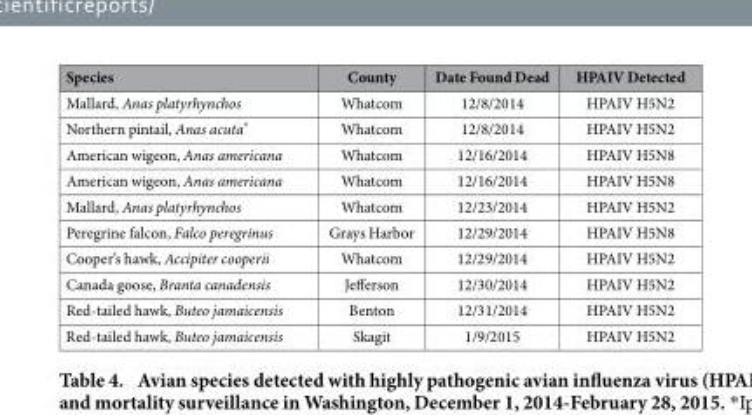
<table><thead><tr><td>Species</td><td>County</td><td>Date Found Dead</td><td>HPAIV Detected</td></tr></thead><tbody><tr><td>Mallard, Anas platyrhynchos</td><td>Whatcom</td><td>12/8/2014</td><td>HPAIV H5N2</td></tr><tr><td>Northern pintail, Anas acuta*</td><td>Whatcom</td><td>12/8/2014</td><td>HPAIV H5N2</td></tr><tr><td>American wigeon, Anas americana</td><td>Whatcom</td><td>12/16/2014</td><td>HPAIV H5N8</td></tr><tr><td>American wigeon, Anas americana</td><td>Whatcom</td><td>12/16/2014</td><td>HPAIV H5N8</td></tr><tr><td>Mallard, Anas platyrhynchos</td><td>Whatcom</td><td>12/23/2014</td><td>HPAIV H5N2</td></tr><tr><td>Peregrine falcon, Falco peregrinus</td><td>Grays Harbor</td><td>12/29/2014</td><td>HPAIV H5N8</td></tr><tr><td>Cooper’s hawk, Accipiter cooperii</td><td>Whatcom</td><td>12/29/2014</td><td>HPAIV H5N2</td></tr><tr><td>Canada goose, Branta canadensis</td><td>Jefferson</td><td>12/30/2014</td><td>HPAIV H5N2</td></tr><tr><td>Red-tailed hawk, Buteo jamaicensis</td><td>Benton</td><td>12/31/2014</td><td>HPAIV H5N2</td></tr><tr><td>Red-tailed hawk, Buteo jamaicensis</td><td>Skagit</td><td>1/9/2015</td><td>HPAIV H5N2</td></tr></tbody></table>